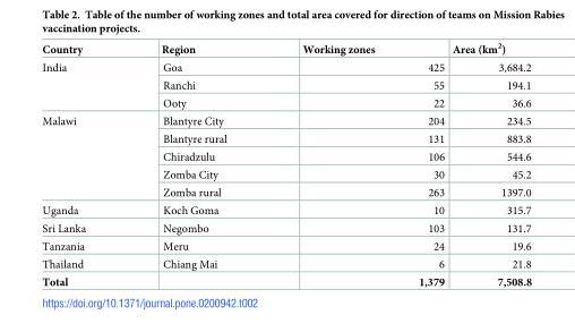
<table><thead><tr><td>Country</td><td>Region</td><td>Working zones</td><td>Area (km<sup>2</sup>)</td></tr></thead><tbody><tr><td rowspan="3">India</td><td>Goa</td><td>425</td><td>3,684.2</td></tr><tr><td>Ranchi</td><td>55</td><td>194.1</td></tr><tr><td>Ooty</td><td>22</td><td>36.6</td></tr><tr><td rowspan="5">Malawi</td><td>Blantyre City</td><td>204</td><td>234.5</td></tr><tr><td>Blantyre rural</td><td>131</td><td>883.8</td></tr><tr><td>Chiradzulu</td><td>106</td><td>544.6</td></tr><tr><td>Zomba City</td><td>30</td><td>45.2</td></tr><tr><td>Zomba rural</td><td>263</td><td>1397.0</td></tr><tr><td>Uganda</td><td>Koch Goma</td><td>10</td><td>315.7</td></tr><tr><td>Sri Lanka</td><td>Negombo</td><td>103</td><td>131.7</td></tr><tr><td>Tanzania</td><td>Meru</td><td>24</td><td>19.6</td></tr><tr><td>Thailand</td><td>Chiang Mai</td><td>6</td><td>21.8</td></tr><tr><td>Total</td><td></td><td>1,379</td><td>7,508.8</td></tr></tbody></table>